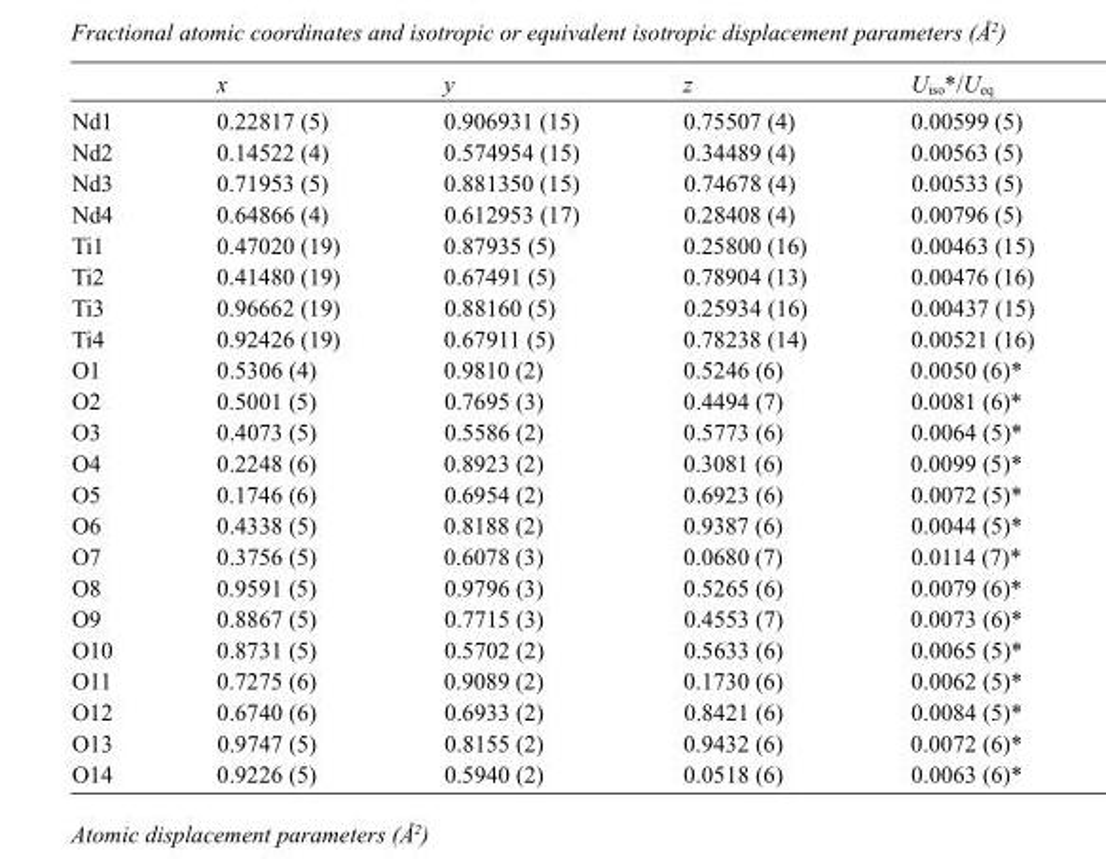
<table><thead><tr><td></td><td>x</td><td>y</td><td>z</td><td>U<sub>iso</sub>*/U<sub>eq</sub></td></tr></thead><tbody><tr><td>Nd1</td><td>0.22817 (5)</td><td>0.906931 (15)</td><td>0.75507 (4)</td><td>0.00599 (5)</td></tr><tr><td>Nd2</td><td>0.14522 (4)</td><td>0.574954 (15)</td><td>0.34489 (4)</td><td>0.00563 (5)</td></tr><tr><td>Nd3</td><td>0.71953 (5)</td><td>0.881350 (15)</td><td>0.74678 (4)</td><td>0.00533 (5)</td></tr><tr><td>Nd4</td><td>0.64866 (4)</td><td>0.612953 (17)</td><td>0.28408 (4)</td><td>0.00796 (5)</td></tr><tr><td>Ti1</td><td>0.47020 (19)</td><td>0.87935 (5)</td><td>0.25800 (16)</td><td>0.00463 (15)</td></tr><tr><td>Ti2</td><td>0.41480 (19)</td><td>0.67491 (5)</td><td>0.78904 (13)</td><td>0.00476 (16)</td></tr><tr><td>Ti3</td><td>0.96662 (19)</td><td>0.88160 (5)</td><td>0.25934 (16)</td><td>0.00437 (15)</td></tr><tr><td>Ti4</td><td>0.92426 (19)</td><td>0.67911 (5)</td><td>0.78238 (14)</td><td>0.00521 (16)</td></tr><tr><td>O1</td><td>0.5306 (4)</td><td>0.9810 (2)</td><td>0.5246 (6)</td><td>0.0050 (6)*</td></tr><tr><td>O2</td><td>0.5001 (5)</td><td>0.7695 (3)</td><td>0.4494 (7)</td><td>0.0081 (6)*</td></tr><tr><td>O3</td><td>0.4073 (5)</td><td>0.5586 (2)</td><td>0.5773 (6)</td><td>0.0064 (5)*</td></tr><tr><td>O4</td><td>0.2248 (6)</td><td>0.8923 (2)</td><td>0.3081 (6)</td><td>0.0099 (5)*</td></tr><tr><td>O5</td><td>0.1746 (6)</td><td>0.6954 (2)</td><td>0.6923 (6)</td><td>0.0072 (5)*</td></tr><tr><td>O6</td><td>0.4338 (5)</td><td>0.8188 (2)</td><td>0.9387 (6)</td><td>0.0044 (5)*</td></tr><tr><td>O7</td><td>0.3756 (5)</td><td>0.6078 (3)</td><td>0.0680 (7)</td><td>0.0114 (7)*</td></tr><tr><td>O8</td><td>0.9591 (5)</td><td>0.9796 (3)</td><td>0.5265 (6)</td><td>0.0079 (6)*</td></tr><tr><td>O9</td><td>0.8867 (5)</td><td>0.7715 (3)</td><td>0.4553 (7)</td><td>0.0073 (6)*</td></tr><tr><td>O10</td><td>0.8731 (5)</td><td>0.5702 (2)</td><td>0.5633 (6)</td><td>0.0065 (5)*</td></tr><tr><td>O11</td><td>0.7275 (6)</td><td>0.9089 (2)</td><td>0.1730 (6)</td><td>0.0062 (5)*</td></tr><tr><td>O12</td><td>0.6740 (6)</td><td>0.6933 (2)</td><td>0.8421 (6)</td><td>0.0084 (5)*</td></tr><tr><td>O13</td><td>0.9747 (5)</td><td>0.8155 (2)</td><td>0.9432 (6)</td><td>0.0072 (6)*</td></tr><tr><td>O14</td><td>0.9226 (5)</td><td>0.5940 (2)</td><td>0.0518 (6)</td><td>0.0063 (6)*</td></tr></tbody></table>